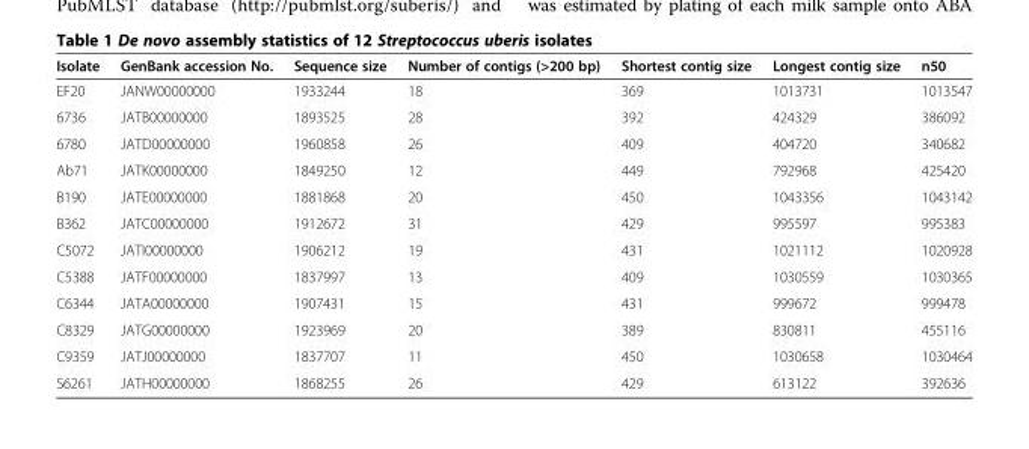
<table><thead><tr><td>Isolate</td><td>GenBank accession No.</td><td>Sequence size</td><td>Number of contigs (&gt;200 bp)</td><td>Shortest contig size</td><td>Longest contig size</td><td>n50</td></tr></thead><tbody><tr><td>EF20</td><td>JANW00000000</td><td>1933244</td><td>18</td><td>369</td><td>1013731</td><td>1013547</td></tr><tr><td>6736</td><td>JATB00000000</td><td>1893525</td><td>28</td><td>392</td><td>424329</td><td>386092</td></tr><tr><td>6780</td><td>JATD00000000</td><td>1960858</td><td>26</td><td>409</td><td>404720</td><td>340682</td></tr><tr><td>Ab71</td><td>JATK00000000</td><td>1849250</td><td>12</td><td>449</td><td>792968</td><td>425420</td></tr><tr><td>B190</td><td>JATE00000000</td><td>1881868</td><td>20</td><td>450</td><td>1043356</td><td>1043142</td></tr><tr><td>B362</td><td>JATC00000000</td><td>1912672</td><td>31</td><td>429</td><td>995597</td><td>995383</td></tr><tr><td>C5072</td><td>JATI00000000</td><td>1906212</td><td>19</td><td>431</td><td>1021112</td><td>1020928</td></tr><tr><td>C5388</td><td>JATF00000000</td><td>1837997</td><td>13</td><td>409</td><td>1030559</td><td>1030365</td></tr><tr><td>C6344</td><td>JATA00000000</td><td>1907431</td><td>15</td><td>431</td><td>999672</td><td>999478</td></tr><tr><td>C8329</td><td>JATG00000000</td><td>1923969</td><td>20</td><td>389</td><td>830811</td><td>455116</td></tr><tr><td>C9359</td><td>JATJ00000000</td><td>1837707</td><td>11</td><td>450</td><td>1030658</td><td>1030464</td></tr><tr><td>S6261</td><td>JATH00000000</td><td>1868255</td><td>26</td><td>429</td><td>613122</td><td>392636</td></tr></tbody></table>